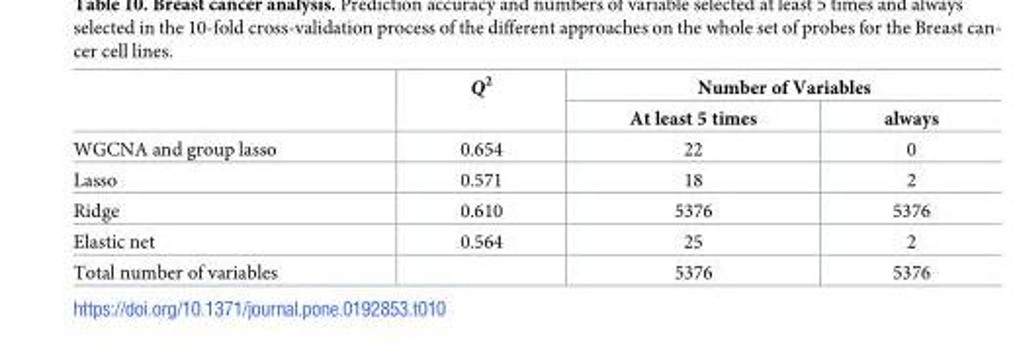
<table><thead><tr><td rowspan="2"></td><td rowspan="2">Q<sup>2</sup></td><td colspan="2">Number of Variables</td></tr><tr><td>At least 5 times</td><td>always</td></tr></thead><tbody><tr><td>WGCNA and group lasso</td><td>0.654</td><td>22</td><td>0</td></tr><tr><td>Lasso</td><td>0.571</td><td>18</td><td>2</td></tr><tr><td>Ridge</td><td>0.610</td><td>5376</td><td>5376</td></tr><tr><td>Elastic net</td><td>0.564</td><td>25</td><td>2</td></tr><tr><td>Total number of variables</td><td></td><td>5376</td><td>5376</td></tr></tbody></table>